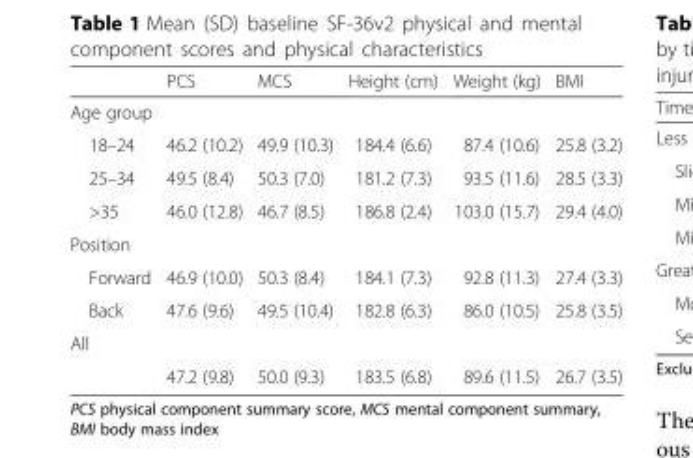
<table><thead><tr><td></td><td>PCS</td><td>MCS</td><td>Height (cm)</td><td>Weight (kg)</td><td>BMI</td></tr></thead><tbody><tr><td colspan="6">Age group</td></tr><tr><td>18–24</td><td>46.2 (10.2)</td><td>49.9 (10.3)</td><td>184.4 (6.6)</td><td>87.4 (10.6)</td><td>25.8 (3.2)</td></tr><tr><td>25–34</td><td>49.5 (8.4)</td><td>50.3 (7.0)</td><td>181.2 (7.3)</td><td>93.5 (11.6)</td><td>28.5 (3.3)</td></tr><tr><td>&gt;35</td><td>46.0 (12.8)</td><td>46.7 (8.5)</td><td>186.8 (2.4)</td><td>103.0 (15.7)</td><td>29.4 (4.0)</td></tr><tr><td colspan="6">Position</td></tr><tr><td>Forward</td><td>46.9 (10.0)</td><td>50.3 (8.4)</td><td>184.1 (7.3)</td><td>92.8 (11.3)</td><td>27.4 (3.3)</td></tr><tr><td>Back</td><td>47.6 (9.6)</td><td>49.5 (10.4)</td><td>182.8 (6.3)</td><td>86.0 (10.5)</td><td>25.8 (3.5)</td></tr><tr><td colspan="6">All</td></tr><tr><td></td><td>47.2 (9.8)</td><td>50.0 (9.3)</td><td>183.5 (6.8)</td><td>89.6 (11.5)</td><td>26.7 (3.5)</td></tr></tbody></table>